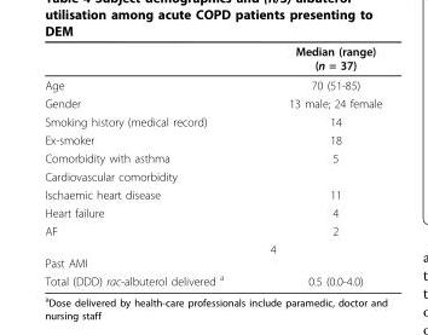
<table><thead><tr><td></td><td>Median (range) (n = 37)</td></tr></thead><tbody><tr><td>Age</td><td>70 (51-85)</td></tr><tr><td>Gender</td><td>13 male; 24 female</td></tr><tr><td>Smoking history (medical record)</td><td>14</td></tr><tr><td>Ex-smoker</td><td>18</td></tr><tr><td>Comorbidity with asthma</td><td>5</td></tr><tr><td colspan="2">Cardiovascular comorbidity</td></tr><tr><td>Ischaemic heart disease</td><td>11</td></tr><tr><td>Heart failure</td><td>4</td></tr><tr><td>AF</td><td>2</td></tr><tr><td>Past AMI</td><td>4</td></tr><tr><td>Total (DDD) rac-albuterol delivered <sup>a</sup></td><td>0.5 (0.0-4.0)</td></tr></tbody></table>